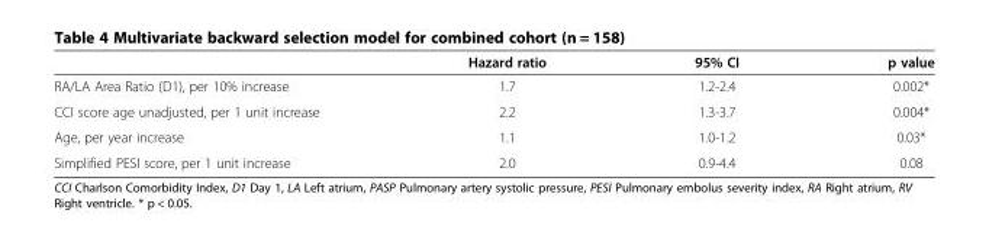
<table><thead><tr><td></td><td>Hazard ratio</td><td>95% CI</td><td>p value</td></tr></thead><tbody><tr><td>RA/LA Area Ratio (D1), per 10% increase</td><td>1.7</td><td>1.2-2.4</td><td>0.002*</td></tr><tr><td>CCI score age unadjusted, per 1 unit increase</td><td>2.2</td><td>1.3-3.7</td><td>0.004*</td></tr><tr><td>Age, per year increase</td><td>1.1</td><td>1.0-1.2</td><td>0.03*</td></tr><tr><td>Simplified PESI score, per 1 unit increase</td><td>2.0</td><td>0.9-4.4</td><td>0.08</td></tr></tbody></table>